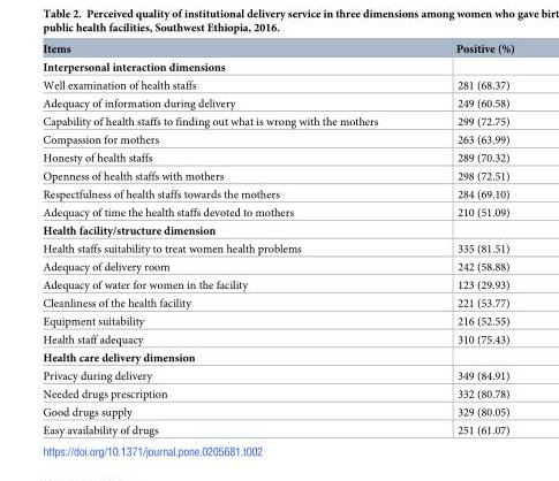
<table><thead><tr><td>Items</td><td>Positive (%)</td></tr></thead><tbody><tr><td colspan="2">Interpersonal interaction dimensions</td></tr><tr><td>Well examination of health staffs</td><td>281 (68.37)</td></tr><tr><td>Adequacy of information during delivery</td><td>249 (60.58)</td></tr><tr><td>Capability of health staffs to finding out what is wrong with the mothers</td><td>299 (72.75)</td></tr><tr><td>Compassion for mothers</td><td>263 (63.99)</td></tr><tr><td>Honesty of health staffs</td><td>289 (70.32)</td></tr><tr><td>Openness of health staffs with mothers</td><td>298 (72.51)</td></tr><tr><td>Respectfulness of health staffs towards the mothers</td><td>284 (69.10)</td></tr><tr><td>Adequacy of time the health staffs devoted to mothers</td><td>210 (51.09)</td></tr><tr><td colspan="2">Health facility/structure dimension</td></tr><tr><td>Health staffs suitability to treat women health problems</td><td>335 (81.51)</td></tr><tr><td>Adequacy of delivery room</td><td>242 (58.88)</td></tr><tr><td>Adequacy of water for women in the facility</td><td>123 (29.93)</td></tr><tr><td>Cleanliness of the health facility</td><td>221 (53.77)</td></tr><tr><td>Equipment suitability</td><td>216 (52.55)</td></tr><tr><td>Health staff adequacy</td><td>310 (75.43)</td></tr><tr><td colspan="2">Health care delivery dimension</td></tr><tr><td>Privacy during delivery</td><td>349 (84.91)</td></tr><tr><td>Needed drugs prescription</td><td>332 (80.78)</td></tr><tr><td>Good drugs supply</td><td>329 (80.05)</td></tr><tr><td>Easy availability of drugs</td><td>251 (61.07)</td></tr></tbody></table>